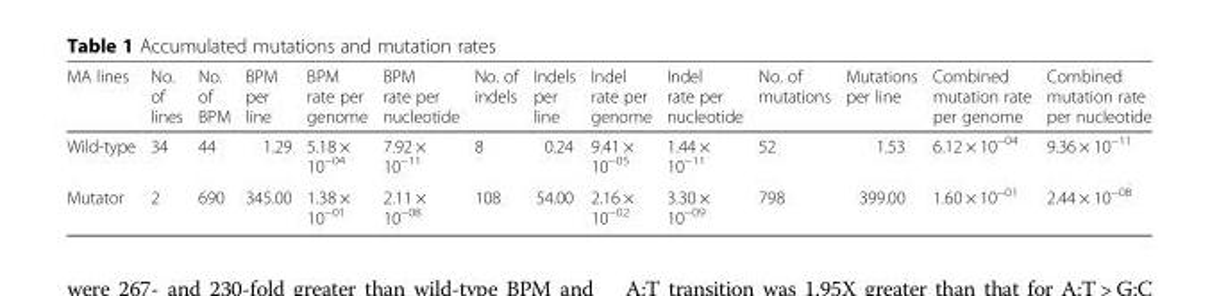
<table><thead><tr><td>MA lines</td><td>No. of lines</td><td>No. of BPM</td><td>BPM per line</td><td>BPM rate per genome</td><td>BPM rate per nucleotide</td><td>No. of indels</td><td>Indels per line</td><td>Indel rate per genome</td><td>Indel rate per nucleotide</td><td>No. of mutations</td><td>Mutations per line</td><td>Combined mutation rate per genome</td><td>Combined mutation rate per nucleotide</td></tr></thead><tbody><tr><td>Wild-type</td><td>34</td><td>44</td><td>1.29</td><td>5.18 × 10<sup>−04</sup></td><td>7.92 × 10<sup>−11</sup></td><td>8</td><td>0.24</td><td>9.41 × 10<sup>−05</sup></td><td>1.44 × 10<sup>−11</sup></td><td>52</td><td>1.53</td><td>6.12 × 10<sup>−04</sup></td><td>9.36 × 10<sup>−11</sup></td></tr><tr><td>Mutator</td><td>2</td><td>690</td><td>345.00</td><td>1.38 × 10<sup>−01</sup></td><td>2.11 × 10<sup>−08</sup></td><td>108</td><td>54.00</td><td>2.16 × 10<sup>−02</sup></td><td>3.30 × 10<sup>−09</sup></td><td>798</td><td>399.00</td><td>1.60 × 10<sup>−01</sup></td><td>2.44 × 10<sup>−08</sup></td></tr></tbody></table>